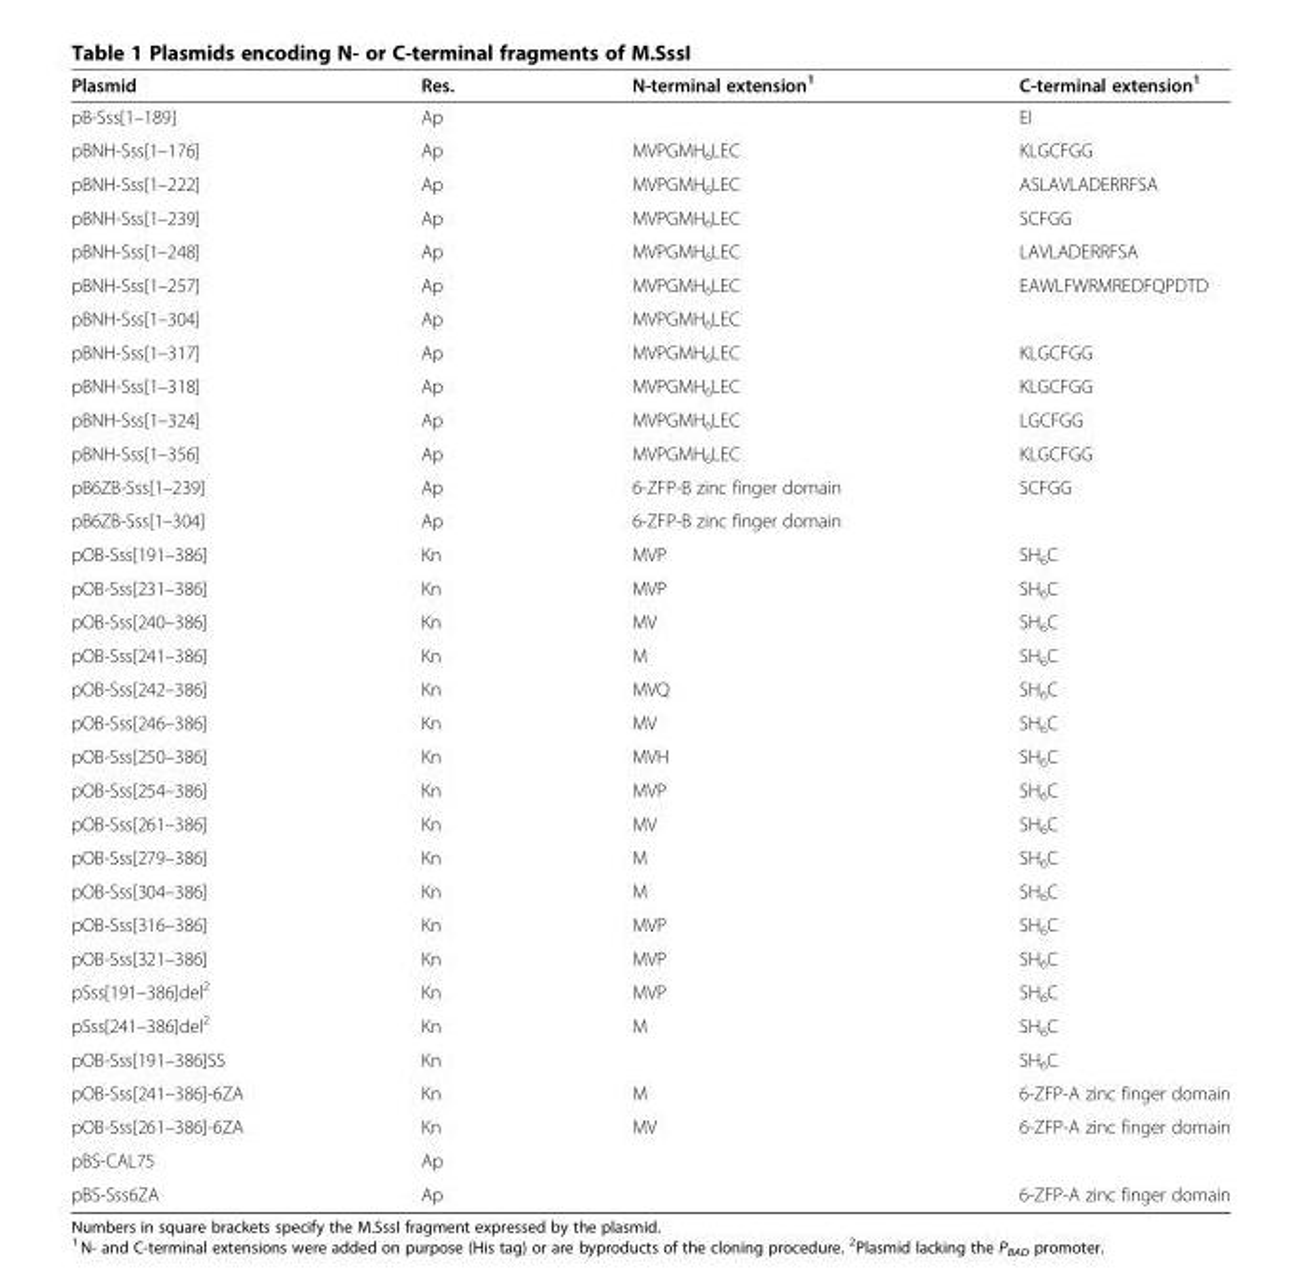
<table><thead><tr><td>Plasmid</td><td>Res.</td><td>N-terminal extension<sup>1</sup></td><td>C-terminal extension<sup>1</sup></td></tr></thead><tbody><tr><td>pB-Sss[1–189]</td><td>Ap</td><td></td><td>EI</td></tr><tr><td>pBNH-Sss[1–176]</td><td>Ap</td><td>MVPGMH<sub>6</sub>LEC</td><td>KLGCFGG</td></tr><tr><td>pBNH-Sss[1–222]</td><td>Ap</td><td>MVPGMH<sub>6</sub>LEC</td><td>ASLAVLADERRFSA</td></tr><tr><td>pBNH-Sss[1–239]</td><td>Ap</td><td>MVPGMH<sub>6</sub>LEC</td><td>SCFGG</td></tr><tr><td>pBNH-Sss[1–248]</td><td>Ap</td><td>MVPGMH<sub>6</sub>LEC</td><td>LAVLADERRFSA</td></tr><tr><td>pBNH-Sss[1–257]</td><td>Ap</td><td>MVPGMH<sub>6</sub>LEC</td><td>EAWLFWRMREDFQPDTD</td></tr><tr><td>pBNH-Sss[1–304]</td><td>Ap</td><td>MVPGMH<sub>6</sub>LEC</td><td></td></tr><tr><td>pBNH-Sss[1–317]</td><td>Ap</td><td>MVPGMH<sub>6</sub>LEC</td><td>KLGCFGG</td></tr><tr><td>pBNH-Sss[1–318]</td><td>Ap</td><td>MVPGMH<sub>6</sub>LEC</td><td>KLGCFGG</td></tr><tr><td>pBNH-Sss[1–324]</td><td>Ap</td><td>MVPGMH<sub>6</sub>LEC</td><td>LGCFGG</td></tr><tr><td>pBNH-Sss[1–356]</td><td>Ap</td><td>MVPGMH<sub>6</sub>LEC</td><td>KLGCFGG</td></tr><tr><td>pB6ZB-Sss[1–239]</td><td>Ap</td><td>6-ZFP-B zinc finger domain</td><td>SCFGG</td></tr><tr><td>pB6ZB-Sss[1–304]</td><td>Ap</td><td>6-ZFP-B zinc finger domain</td><td></td></tr><tr><td>pOB-Sss[191–386]</td><td>Kn</td><td>MVP</td><td>SH<sub>6</sub>C</td></tr><tr><td>pOB-Sss[231–386]</td><td>Kn</td><td>MVP</td><td>SH<sub>6</sub>C</td></tr><tr><td>pOB-Sss[240–386]</td><td>Kn</td><td>MV</td><td>SH<sub>6</sub>C</td></tr><tr><td>pOB-Sss[241–386]</td><td>Kn</td><td>M</td><td>SH<sub>6</sub>C</td></tr><tr><td>pOB-Sss[242–386]</td><td>Kn</td><td>MVQ</td><td>SH<sub>6</sub>C</td></tr><tr><td>pOB-Sss[246–386]</td><td>Kn</td><td>MV</td><td>SH<sub>6</sub>C</td></tr><tr><td>pOB-Sss[250–386]</td><td>Kn</td><td>MVH</td><td>SH<sub>6</sub>C</td></tr><tr><td>pOB-Sss[254–386]</td><td>Kn</td><td>MVP</td><td>SH<sub>6</sub>C</td></tr><tr><td>pOB-Sss[261–386]</td><td>Kn</td><td>MV</td><td>SH<sub>6</sub>C</td></tr><tr><td>pOB-Sss[279–386]</td><td>Kn</td><td>M</td><td>SH<sub>6</sub>C</td></tr><tr><td>pOB-Sss[304–386]</td><td>Kn</td><td>M</td><td>SH<sub>6</sub>C</td></tr><tr><td>pOB-Sss[316–386]</td><td>Kn</td><td>MVP</td><td>SH<sub>6</sub>C</td></tr><tr><td>pOB-Sss[321–386]</td><td>Kn</td><td>MVP</td><td>SH<sub>6</sub>C</td></tr><tr><td>pSss[191–386]del<sup>2</sup></td><td>Kn</td><td>MVP</td><td>SH<sub>6</sub>C</td></tr><tr><td>pSss[241–386]del<sup>2</sup></td><td>Kn</td><td>M</td><td>SH<sub>6</sub>C</td></tr><tr><td>pOB-Sss[191–386]SS</td><td>Kn</td><td></td><td>SH<sub>6</sub>C</td></tr><tr><td>pOB-Sss[241–386]-6ZA</td><td>Kn</td><td>M</td><td>6-ZFP-A zinc finger domain</td></tr><tr><td>pOB-Sss[261–386]-6ZA</td><td>Kn</td><td>MV</td><td>6-ZFP-A zinc finger domain</td></tr><tr><td>pBS-CAL75</td><td>Ap</td><td></td><td></td></tr><tr><td>pBS-Sss6ZA</td><td>Ap</td><td></td><td>6-ZFP-A zinc finger domain</td></tr></tbody></table>